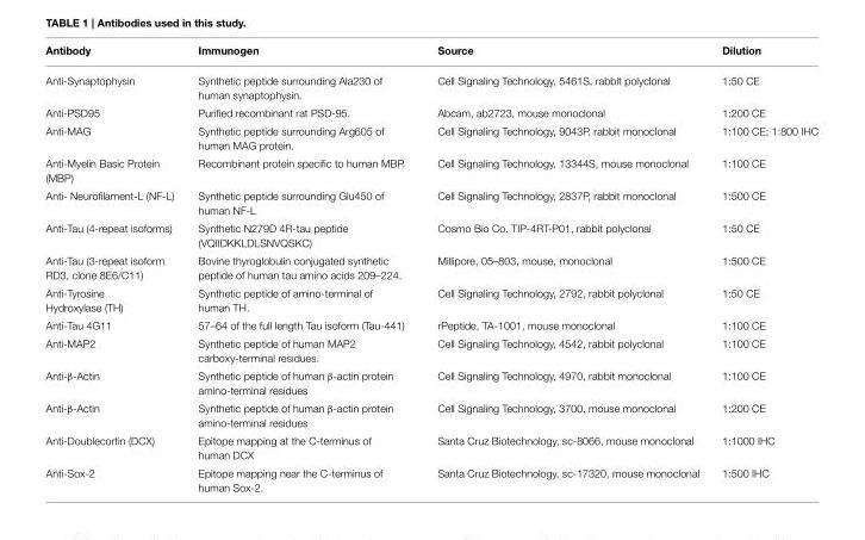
<table><thead><tr><td>Antibody</td><td>Immunogen</td><td>Source</td><td>Dilution</td></tr></thead><tbody><tr><td>Anti-Synaptophysin</td><td>Synthetic peptide surrounding Ala230 of human synaptophysin.</td><td>Cell Signaling Technology, 5461S, rabbit polyclonal</td><td>1:50 CE</td></tr><tr><td>Anti-PSD95</td><td>Purified recombinant rat PSD-95.</td><td>Abcam, ab2723, mouse monoclonal</td><td>1:200 CE</td></tr><tr><td>Anti-MAG</td><td>Synthetic peptide surrounding Arg605 of human MAG protein.</td><td>Cell Signaling Technology, 9043P, rabbit monoclonal</td><td>1:100 CE; 1:800 IHC</td></tr><tr><td>Anti-Myelin Basic Protein (MBP)</td><td>Recombinant protein specific to human MBP.</td><td>Cell Signaling Technology, 13344S, mouse monoclonal</td><td>1:100 CE</td></tr><tr><td>Anti- Neurofilament-L (NF-L)</td><td>Synthetic peptide surrounding Glu450 of human NF-L</td><td>Cell Signaling Technology, 2837P, rabbit monoclonal</td><td>1:500 CE</td></tr><tr><td>Anti-Tau (4-repeat isoforms)</td><td>Synthetic N279D 4R-tau peptide (VQIIDKKLDLSNVQSKC)</td><td>Cosmo Bio Co. TIP-4RT-P01, rabbit polyclonal</td><td>1:50 CE</td></tr><tr><td>Anti-Tau (3-repeat isoform RD3, clone 8E6/C11)</td><td>Bovine thyroglobulin conjugated synthetic peptide of human tau amino acids 209–224.</td><td>Millipore, 05–803, mouse, monoclonal</td><td>1:500 CE</td></tr><tr><td>Anti-Tyrosine Hydroxylase (TH)</td><td>Synthetic peptide of amino-terminal of human TH.</td><td>Cell Signaling Technology, 2792, rabbit polyclonal</td><td>1:50 CE</td></tr><tr><td>Anti-Tau 4G11</td><td>57–64 of the full length Tau isoform (Tau-441)</td><td>rPeptide, TA-1001, mouse monoclonal</td><td>1:100 CE</td></tr><tr><td>Anti-MAP2</td><td>Synthetic peptide of human MAP2 carboxy-terminal residues.</td><td>Cell Signaling Technology, 4542, rabbit polyclonal</td><td>1:100 CE</td></tr><tr><td>Anti-β-Actin</td><td>Synthetic peptide of human β-actin protein amino-terminal residues</td><td>Cell Signaling Technology, 4970, rabbit monoclonal</td><td>1:100 CE</td></tr><tr><td>Anti-β-Actin</td><td>Synthetic peptide of human β-actin protein amino-terminal residues</td><td>Cell Signaling Technology, 3700, mouse monoclonal</td><td>1:200 CE</td></tr><tr><td>Anti-Doublecortin (DCX)</td><td>Epitope mapping at the C-terminus of human DCX</td><td>Santa Cruz Biotechnology, sc-8066, mouse monoclonal</td><td>1:1000 IHC</td></tr><tr><td>Anti-Sox-2</td><td>Epitope mapping near the C-terminus of human Sox-2.</td><td>Santa Cruz Biotechnology, sc-17320, mouse monoclonal</td><td>1:500 IHC</td></tr></tbody></table>